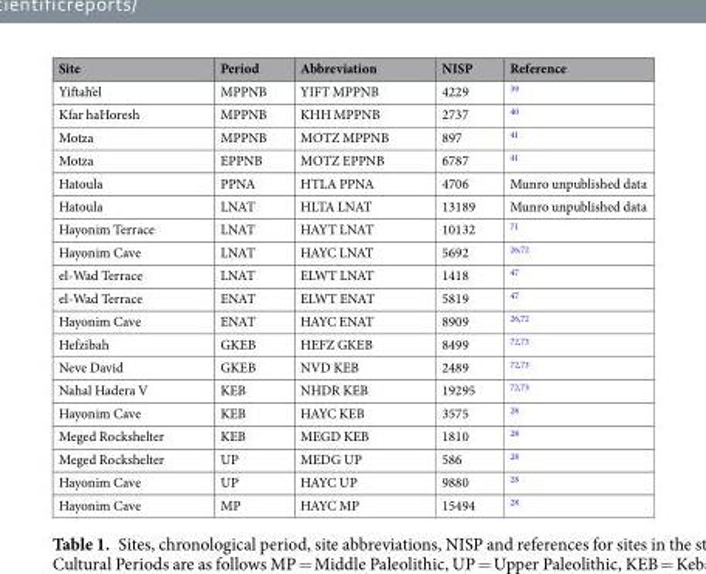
<table><thead><tr><td>Site</td><td>Period</td><td>Abbreviation</td><td>NISP</td><td>Reference</td></tr></thead><tbody><tr><td>Yiftah’el</td><td>MPPNB</td><td>YIFT MPPNB</td><td>4229</td><td><sup>39</sup></td></tr><tr><td>Kfar haHoresh</td><td>MPPNB</td><td>KHH MPPNB</td><td>2737</td><td><sup>40</sup></td></tr><tr><td>Motza</td><td>MPPNB</td><td>MOTZ MPPNB</td><td>897</td><td><sup>41</sup></td></tr><tr><td>Motza</td><td>EPPNB</td><td>MOTZ EPPNB</td><td>6787</td><td><sup>41</sup></td></tr><tr><td>Hatoula</td><td>PPNA</td><td>HTLA PPNA</td><td>4706</td><td>Munro unpublished data</td></tr><tr><td>Hatoula</td><td>LNAT</td><td>HLTA LNAT</td><td>13189</td><td>Munro unpublished data</td></tr><tr><td>Hayonim Terrace</td><td>LNAT</td><td>HAYT LNAT</td><td>10132</td><td><sup>71</sup></td></tr><tr><td>Hayonim Cave</td><td>LNAT</td><td>HAYC LNAT</td><td>5692</td><td><sup>26,72</sup></td></tr><tr><td>el-Wad Terrace</td><td>LNAT</td><td>ELWT LNAT</td><td>1418</td><td><sup>47</sup></td></tr><tr><td>el-Wad Terrace</td><td>ENAT</td><td>ELWT ENAT</td><td>5819</td><td><sup>47</sup></td></tr><tr><td>Hayonim Cave</td><td>ENAT</td><td>HAYC ENAT</td><td>8909</td><td><sup>26,72</sup></td></tr><tr><td>Hefzibah</td><td>GKEB</td><td>HEFZ GKEB</td><td>8499</td><td><sup>72,73</sup></td></tr><tr><td>Neve David</td><td>GKEB</td><td>NVD KEB</td><td>2489</td><td><sup>72,73</sup></td></tr><tr><td>Nahal Hadera V</td><td>KEB</td><td>NHDR KEB</td><td>19295</td><td><sup>72,73</sup></td></tr><tr><td>Hayonim Cave</td><td>KEB</td><td>HAYC KEB</td><td>3575</td><td><sup>28</sup></td></tr><tr><td>Meged Rockshelter</td><td>KEB</td><td>MEGD KEB</td><td>1810</td><td><sup>28</sup></td></tr><tr><td>Meged Rockshelter</td><td>UP</td><td>MEDG UP</td><td>586</td><td><sup>28</sup></td></tr><tr><td>Hayonim Cave</td><td>UP</td><td>HAYC UP</td><td>9880</td><td><sup>28</sup></td></tr><tr><td>Hayonim Cave</td><td>MP</td><td>HAYC MP</td><td>15494</td><td><sup>28</sup></td></tr></tbody></table>